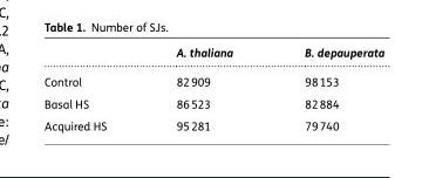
<table><thead><tr><td></td><td>A. thaliana</td><td>B. depauperata</td></tr></thead><tbody><tr><td>Control</td><td>82 909</td><td>98 153</td></tr><tr><td>Basal HS</td><td>86 523</td><td>82 884</td></tr><tr><td>Acquired HS</td><td>95 281</td><td>79 740</td></tr></tbody></table>